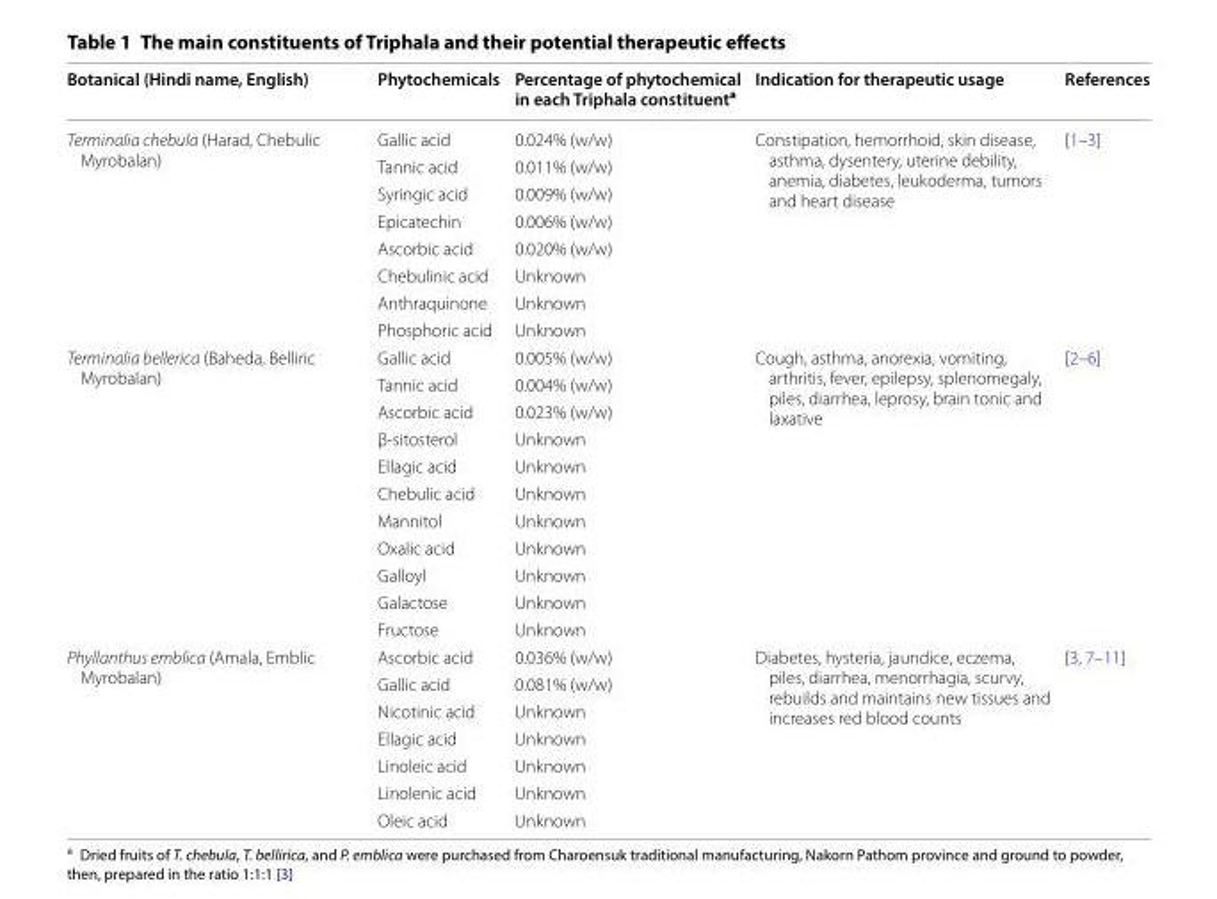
<table><thead><tr><td>Botanical (Hindi name, English)</td><td>Phytochemicals</td><td>Percentage of phytochemical in each Triphala constituent<sup>a</sup></td><td>Indication for therapeutic usage</td><td>References</td></tr></thead><tbody><tr><td rowspan="8">Terminalia chebula (Harad, Chebulic Myrobalan)</td><td>Gallic acid</td><td>0.024% (w/w)</td><td rowspan="8">Constipation, hemorrhoid, skin disease, asthma, dysentery, uterine debility, anemia, diabetes, leukoderma, tumors and heart disease</td><td rowspan="8">[1–3]</td></tr><tr><td>Tannic acid</td><td>0.011% (w/w)</td></tr><tr><td>Syringic acid</td><td>0.009% (w/w)</td></tr><tr><td>Epicatechin</td><td>0.006% (w/w)</td></tr><tr><td>Ascorbic acid</td><td>0.020% (w/w)</td></tr><tr><td>Chebulinic acid</td><td>Unknown</td></tr><tr><td>Anthraquinone</td><td>Unknown</td></tr><tr><td>Phosphoric acid</td><td>Unknown</td></tr><tr><td rowspan="11">Terminalia bellerica (Baheda, Belliric Myrobalan)</td><td>Gallic acid</td><td>0.005% (w/w)</td><td rowspan="11">Cough, asthma, anorexia, vomiting, arthritis, fever, epilepsy, splenomegaly, piles, diarrhea, leprosy, brain tonic and laxative</td><td rowspan="11">[2–6]</td></tr><tr><td>Tannic acid</td><td>0.004% (w/w)</td></tr><tr><td>Ascorbic acid</td><td>0.023% (w/w)</td></tr><tr><td>β-sitosterol</td><td>Unknown</td></tr><tr><td>Ellagic acid</td><td>Unknown</td></tr><tr><td>Chebulic acid</td><td>Unknown</td></tr><tr><td>Mannitol</td><td>Unknown</td></tr><tr><td>Oxalic acid</td><td>Unknown</td></tr><tr><td>Galloyl</td><td>Unknown</td></tr><tr><td>Galactose</td><td>Unknown</td></tr><tr><td>Fructose</td><td>Unknown</td></tr><tr><td rowspan="7">Phyllanthus emblica (Amala, Emblic Myrobalan)</td><td>Ascorbic acid</td><td>0.036% (w/w)</td><td rowspan="7">Diabetes, hysteria, jaundice, eczema, piles, diarrhea, menorrhagia, scurvy, rebuilds and maintains new tissues and increases red blood counts</td><td rowspan="7">[3, 7–11]</td></tr><tr><td>Gallic acid</td><td>0.081% (w/w)</td></tr><tr><td>Nicotinic acid</td><td>Unknown</td></tr><tr><td>Ellagic acid</td><td>Unknown</td></tr><tr><td>Linoleic acid</td><td>Unknown</td></tr><tr><td>Linolenic acid</td><td>Unknown</td></tr><tr><td>Oleic acid</td><td>Unknown</td></tr></tbody></table>